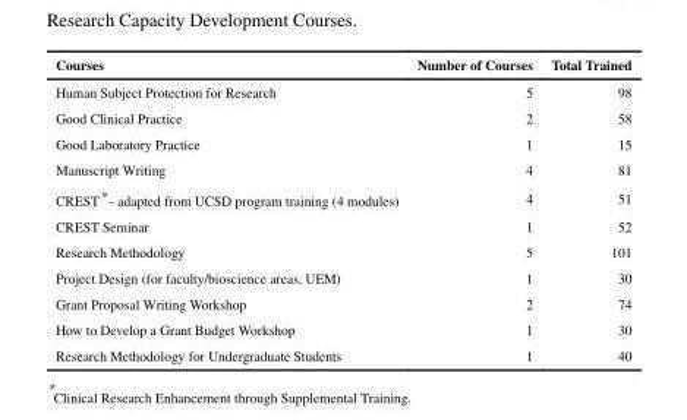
<table><thead><tr><td>Courses</td><td>Number of Courses</td><td>Total Trained</td></tr></thead><tbody><tr><td>Human Subject Protection for Research</td><td>5</td><td>98</td></tr><tr><td>Good Clinical Practice</td><td>2</td><td>58</td></tr><tr><td>Good Laboratory Practice</td><td>1</td><td>15</td></tr><tr><td>Manuscript Writing</td><td>4</td><td>81</td></tr><tr><td>CREST* - adapted from UCSD program training (4 modules)</td><td>4</td><td>51</td></tr><tr><td>CREST Seminar</td><td>1</td><td>52</td></tr><tr><td>Research Methodology</td><td>5</td><td>101</td></tr><tr><td>Project Design (for faculty/bioscience areas, UEM)</td><td>1</td><td>30</td></tr><tr><td>Grant Proposal Writing Workshop</td><td>2</td><td>74</td></tr><tr><td>How to Develop a Grant Budget Workshop</td><td>1</td><td>30</td></tr><tr><td>Research Methodology for Undergraduate Students</td><td>1</td><td>40</td></tr></tbody></table>